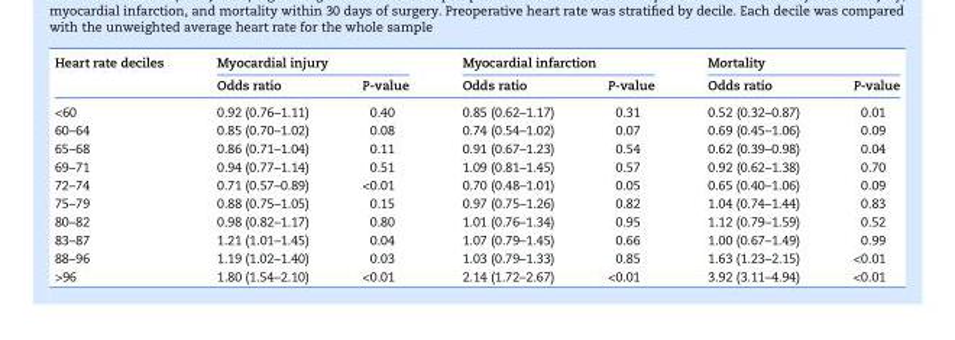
<table><thead><tr><td rowspan="2">Heart rate deciles</td><td colspan="2">Myocardial injury</td><td colspan="2">Myocardial infarction</td><td colspan="2">Mortality</td></tr><tr><td>Odds ratio</td><td>P-value</td><td>Odds ratio</td><td>P-value</td><td>Odds ratio</td><td>P-value</td></tr></thead><tbody><tr><td>&lt;60</td><td>0.92 (0.76–1.11)</td><td>0.40</td><td>0.85 (0.62–1.17)</td><td>0.31</td><td>0.52 (0.32–0.87)</td><td>0.01</td></tr><tr><td>60–64</td><td>0.85 (0.70–1.02)</td><td>0.08</td><td>0.74 (0.54–1.02)</td><td>0.07</td><td>0.69 (0.45–1.06)</td><td>0.09</td></tr><tr><td>65–68</td><td>0.86 (0.71–1.04)</td><td>0.11</td><td>0.91 (0.67–1.23)</td><td>0.54</td><td>0.62 (0.39–0.98)</td><td>0.04</td></tr><tr><td>69–71</td><td>0.94 (0.77–1.14)</td><td>0.51</td><td>1.09 (0.81–1.45)</td><td>0.57</td><td>0.92 (0.62–1.38)</td><td>0.70</td></tr><tr><td>72–74</td><td>0.71 (0.57–0.89)</td><td>&lt;0.01</td><td>0.70 (0.48–1.01)</td><td>0.05</td><td>0.65 (0.40–1.06)</td><td>0.09</td></tr><tr><td>75–79</td><td>0.88 (0.75–1.05)</td><td>0.15</td><td>0.97 (0.75–1.26)</td><td>0.82</td><td>1.04 (0.74–1.44)</td><td>0.83</td></tr><tr><td>80–82</td><td>0.98 (0.82–1.17)</td><td>0.80</td><td>1.01 (0.76–1.34)</td><td>0.95</td><td>1.12 (0.79–1.59)</td><td>0.52</td></tr><tr><td>83–87</td><td>1.21 (1.01–1.45)</td><td>0.04</td><td>1.07 (0.79–1.45)</td><td>0.66</td><td>1.00 (0.67–1.49)</td><td>0.99</td></tr><tr><td>88–96</td><td>1.19 (1.02–1.40)</td><td>0.03</td><td>1.03 (0.79–1.33)</td><td>0.85</td><td>1.63 (1.23–2.15)</td><td>&lt;0.01</td></tr><tr><td>&gt;96</td><td>1.80 (1.54–2.10)</td><td>&lt;0.01</td><td>2.14 (1.72–2.67)</td><td>&lt;0.01</td><td>3.92 (3.11–4.94)</td><td>&lt;0.01</td></tr></tbody></table>